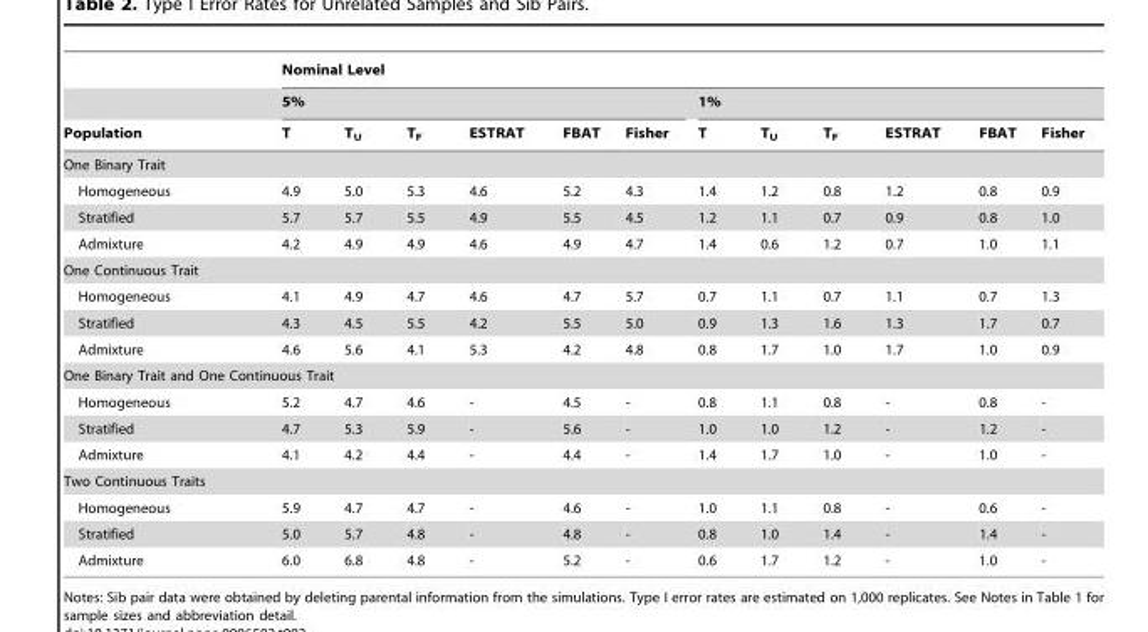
<table><thead><tr><td rowspan="3">Population</td><td colspan="12">Nominal Level</td></tr><tr><td colspan="6">5%</td><td colspan="6">1%</td></tr><tr><td>T</td><td>T<sub>U</sub></td><td>T<sub>F</sub></td><td>ESTRAT</td><td>FBAT</td><td>Fisher</td><td>T</td><td>T<sub>U</sub></td><td>T<sub>F</sub></td><td>ESTRAT</td><td>FBAT</td><td>Fisher</td></tr></thead><tbody><tr><td colspan="13">One Binary Trait</td></tr><tr><td>Homogeneous</td><td>4.9</td><td>5.0</td><td>5.3</td><td>4.6</td><td>5.2</td><td>4.3</td><td>1.4</td><td>1.2</td><td>0.8</td><td>1.2</td><td>0.8</td><td>0.9</td></tr><tr><td>Stratified</td><td>5.7</td><td>5.7</td><td>5.5</td><td>4.9</td><td>5.5</td><td>4.5</td><td>1.2</td><td>1.1</td><td>0.7</td><td>0.9</td><td>0.8</td><td>1.0</td></tr><tr><td>Admixture</td><td>4.2</td><td>4.9</td><td>4.9</td><td>4.6</td><td>4.9</td><td>4.7</td><td>1.4</td><td>0.6</td><td>1.2</td><td>0.7</td><td>1.0</td><td>1.1</td></tr><tr><td colspan="13">One Continuous Trait</td></tr><tr><td>Homogeneous</td><td>4.1</td><td>4.9</td><td>4.7</td><td>4.6</td><td>4.7</td><td>5.7</td><td>0.7</td><td>1.1</td><td>0.7</td><td>1.1</td><td>0.7</td><td>1.3</td></tr><tr><td>Stratified</td><td>4.3</td><td>4.5</td><td>5.5</td><td>4.2</td><td>5.5</td><td>5.0</td><td>0.9</td><td>1.3</td><td>1.6</td><td>1.3</td><td>1.7</td><td>0.7</td></tr><tr><td>Admixture</td><td>4.6</td><td>5.6</td><td>4.1</td><td>5.3</td><td>4.2</td><td>4.8</td><td>0.8</td><td>1.7</td><td>1.0</td><td>1.7</td><td>1.0</td><td>0.9</td></tr><tr><td colspan="13">One Binary Trait and One Continuous Trait</td></tr><tr><td>Homogeneous</td><td>5.2</td><td>4.7</td><td>4.6</td><td>-</td><td>4.5</td><td>-</td><td>0.8</td><td>1.1</td><td>0.8</td><td>-</td><td>0.8</td><td>-</td></tr><tr><td>Stratified</td><td>4.7</td><td>5.3</td><td>5.9</td><td>-</td><td>5.6</td><td>-</td><td>1.0</td><td>1.0</td><td>1.2</td><td>-</td><td>1.2</td><td>-</td></tr><tr><td>Admixture</td><td>4.1</td><td>4.2</td><td>4.4</td><td>-</td><td>4.4</td><td>-</td><td>1.4</td><td>1.7</td><td>1.0</td><td>-</td><td>1.0</td><td>-</td></tr><tr><td colspan="13">Two Continuous Traits</td></tr><tr><td>Homogeneous</td><td>5.9</td><td>4.7</td><td>4.7</td><td>-</td><td>4.6</td><td>-</td><td>1.0</td><td>1.1</td><td>0.8</td><td>-</td><td>0.6</td><td>-</td></tr><tr><td>Stratified</td><td>5.0</td><td>5.7</td><td>4.8</td><td>-</td><td>4.8</td><td>-</td><td>0.8</td><td>1.0</td><td>1.4</td><td>-</td><td>1.4</td><td>-</td></tr><tr><td>Admixture</td><td>6.0</td><td>6.8</td><td>4.8</td><td>-</td><td>5.2</td><td>-</td><td>0.6</td><td>1.7</td><td>1.2</td><td>-</td><td>1.0</td><td>-</td></tr></tbody></table>